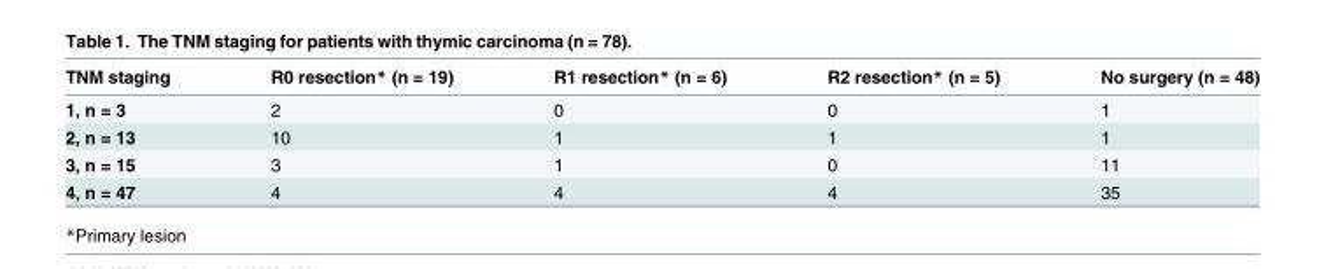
<table><thead><tr><td>TNM staging</td><td>R0 resection* (n = 19)</td><td>R1 resection* (n = 6)</td><td>R2 resection* (n = 5)</td><td>No surgery (n = 48)</td></tr></thead><tbody><tr><td>1, n = 3</td><td>2</td><td>0</td><td>0</td><td>1</td></tr><tr><td>2, n = 13</td><td>10</td><td>1</td><td>1</td><td>1</td></tr><tr><td>3, n = 15</td><td>3</td><td>1</td><td>0</td><td>11</td></tr><tr><td>4, n = 47</td><td>4</td><td>4</td><td>4</td><td>35</td></tr></tbody></table>